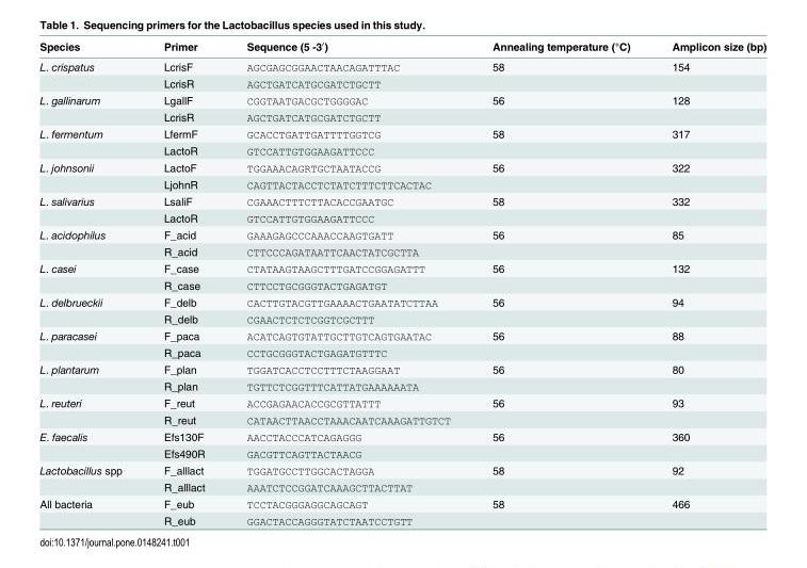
<table><thead><tr><td>Species</td><td>Primer</td><td>Sequence (5ʹ-3ʹ)</td><td>Annealing temperature (°C)</td><td>Amplicon size (bp)</td></tr></thead><tbody><tr><td rowspan="2">L. crispatus</td><td>LcrisF</td><td>AGCGAGCGGAACTAACAGATTTAC</td><td>58</td><td>154</td></tr><tr><td>LcrisR</td><td>AGCTGATCATGCGATCTGCTT</td><td></td><td></td></tr><tr><td rowspan="2">L. gallinarum</td><td>LgallF</td><td>CGGTAATGACGCTGGGGAC</td><td>56</td><td>128</td></tr><tr><td>LcrisR</td><td>AGCTGATCATGCGATCTGCTT</td><td></td><td></td></tr><tr><td rowspan="2">L. fermentum</td><td>LfermF</td><td>GCACCTGATTGATTTTGGTCG</td><td>58</td><td>317</td></tr><tr><td>LactoR</td><td>GTCCATTGTGGAAGATTCCC</td><td></td><td></td></tr><tr><td rowspan="2">L. johnsonii</td><td>LactoF</td><td>TGGAAACAGRTGCTAATACCG</td><td>56</td><td>322</td></tr><tr><td>LjohnR</td><td>CAGTTACTACCTCTATCTTTCTTCACTAC</td><td></td><td></td></tr><tr><td rowspan="2">L. salivarius</td><td>LsaliF</td><td>CGAAACTTTCTTACACCGAATGC</td><td>58</td><td>332</td></tr><tr><td>LactoR</td><td>GTCCATTGTGGAAGATTCCC</td><td></td><td></td></tr><tr><td rowspan="2">L. acidophilus</td><td>F_acid</td><td>GAAAGAGCCCAAACCAAGTGATT</td><td>56</td><td>85</td></tr><tr><td>R_acid</td><td>CTTCCCAGATAATTCAACTATCGCTTA</td><td></td><td></td></tr><tr><td rowspan="2">L. casei</td><td>F_case</td><td>CTATAAGTAAGCTTTGATCCGGAGATTT</td><td>56</td><td>132</td></tr><tr><td>R_case</td><td>CTTCCTGCGGGTACTGAGATGT</td><td></td><td></td></tr><tr><td rowspan="2">L. delbrueckii</td><td>F_delb</td><td>CACTTGTACGTTGAAAACTGAATATCTTAA</td><td>56</td><td>94</td></tr><tr><td>R_delb</td><td>CGAACTCTCTCGGTCGCTTT</td><td></td><td></td></tr><tr><td rowspan="2">L. paracasei</td><td>F_paca</td><td>ACATCAGTGTATTGCTTGTCAGTGAATAC</td><td>56</td><td>88</td></tr><tr><td>R_paca</td><td>CCTGCGGGTACTGAGATGTTTC</td><td></td><td></td></tr><tr><td rowspan="2">L. plantarum</td><td>F_plan</td><td>TGGATCACCTCCTTTCTAAGGAAT</td><td>56</td><td>80</td></tr><tr><td>R_plan</td><td>TGTTCTCGGTTTCATTATGAAAAAATA</td><td></td><td></td></tr><tr><td rowspan="2">L. reuteri</td><td>F_reut</td><td>ACCGAGAACACCGCGTTATTT</td><td>56</td><td>93</td></tr><tr><td>R_reut</td><td>CATAACTTAACCTAAACAATCAAAGATTGTCT</td><td></td><td></td></tr><tr><td rowspan="2">E. faecalis</td><td>Efs130F</td><td>AACCTACCCATCAGAGGG</td><td>56</td><td>360</td></tr><tr><td>Efs490R</td><td>GACGTTCAGTTACTAACG</td><td></td><td></td></tr><tr><td rowspan="2">Lactobacillus spp</td><td>F_alllact</td><td>TGGATGCCTTGGCACTAGGA</td><td>58</td><td>92</td></tr><tr><td>R_alllact</td><td>AAATCTCCGGATCAAAGCTTACTTAT</td><td></td><td></td></tr><tr><td rowspan="2">All bacteria</td><td>F_eub</td><td>TCCTACGGGAGGCAGCAGT</td><td>58</td><td>466</td></tr><tr><td>R_eub</td><td>GGACTACCAGGGTATCTAATCCTGTT</td><td></td><td></td></tr></tbody></table>